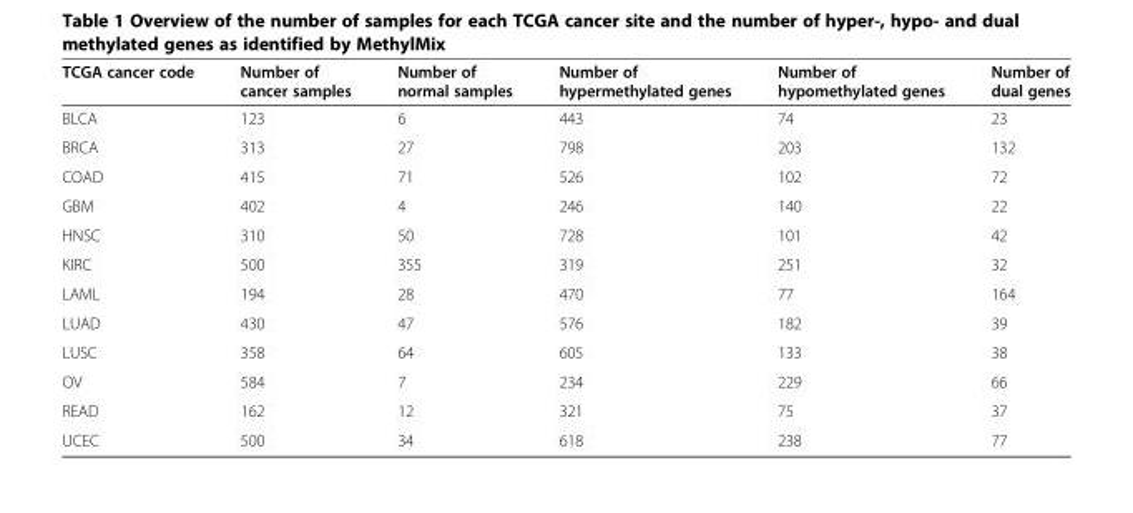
<table><thead><tr><td>TCGA cancer code</td><td>Number of cancer samples</td><td>Number of normal samples</td><td>Number of hypermethylated genes</td><td>Number of hypomethylated genes</td><td>Number of dual genes</td></tr></thead><tbody><tr><td>BLCA</td><td>123</td><td>6</td><td>443</td><td>74</td><td>23</td></tr><tr><td>BRCA</td><td>313</td><td>27</td><td>798</td><td>203</td><td>132</td></tr><tr><td>COAD</td><td>415</td><td>71</td><td>526</td><td>102</td><td>72</td></tr><tr><td>GBM</td><td>402</td><td>4</td><td>246</td><td>140</td><td>22</td></tr><tr><td>HNSC</td><td>310</td><td>50</td><td>728</td><td>101</td><td>42</td></tr><tr><td>KIRC</td><td>500</td><td>355</td><td>319</td><td>251</td><td>32</td></tr><tr><td>LAML</td><td>194</td><td>28</td><td>470</td><td>77</td><td>164</td></tr><tr><td>LUAD</td><td>430</td><td>47</td><td>576</td><td>182</td><td>39</td></tr><tr><td>LUSC</td><td>358</td><td>64</td><td>605</td><td>133</td><td>38</td></tr><tr><td>OV</td><td>584</td><td>7</td><td>234</td><td>229</td><td>66</td></tr><tr><td>READ</td><td>162</td><td>12</td><td>321</td><td>75</td><td>37</td></tr><tr><td>UCEC</td><td>500</td><td>34</td><td>618</td><td>238</td><td>77</td></tr></tbody></table>